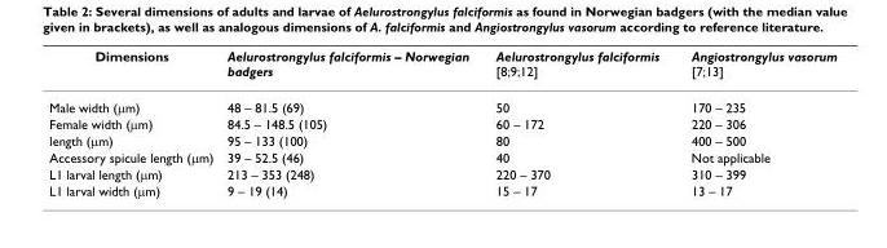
<table><thead><tr><td>Dimensions</td><td>Aelurostrongylus falciformis – Norwegian badgers</td><td>Aelurostrongylus falciformis [8;9;12]</td><td>Angiostrongylus vasorum [7;13]</td></tr></thead><tbody><tr><td>Male width (µm)</td><td>48 – 81.5 (69)</td><td>50</td><td>170 – 235</td></tr><tr><td>Female width (µm)</td><td>84.5 – 148.5 (105)</td><td>60 – 172</td><td>220 – 306</td></tr><tr><td>length (µm)</td><td>95 – 133 (100)</td><td>80</td><td>400 – 500</td></tr><tr><td>Accessory spicule length (µm)</td><td>39 – 52.5 (46)</td><td>40</td><td>Not applicable</td></tr><tr><td>L1 larval length (µm)</td><td>213 – 353 (248)</td><td>220 – 370</td><td>310 – 399</td></tr><tr><td>L1 larval width (µm)</td><td>9 – 19 (14)</td><td>15 – 17</td><td>13 – 17</td></tr></tbody></table>